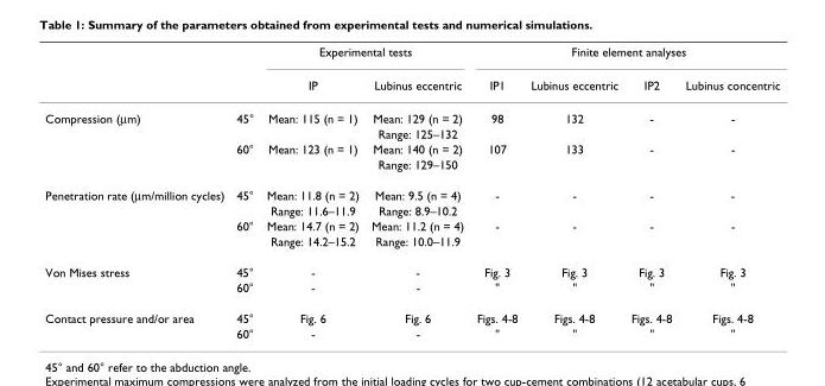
<table><thead><tr><td rowspan="2"></td><td rowspan="2"></td><td colspan="2">Experimental tests</td><td colspan="4">Finite element analyses</td></tr><tr><td>IP</td><td>Lubinus eccentric</td><td>IP1</td><td>Lubinus eccentric</td><td>IP2</td><td>Lubinus concentric</td></tr></thead><tbody><tr><td rowspan="4">Compression (µm)</td><td>45°</td><td>Mean: 115 (n = 1)</td><td>Mean: 129 (n = 2)</td><td>98</td><td>132</td><td>-</td><td>-</td></tr><tr><td></td><td></td><td>Range: 125–132</td><td></td><td></td><td></td><td></td></tr><tr><td>60°</td><td>Mean: 123 (n = 1)</td><td>Mean: 140 (n = 2)</td><td>107</td><td>133</td><td>-</td><td>-</td></tr><tr><td></td><td></td><td>Range: 129–150</td><td></td><td></td><td></td><td></td></tr><tr><td rowspan="4">Penetration rate (µm/million cycles)</td><td>45°</td><td>Mean: 11.8 (n = 2)</td><td>Mean: 9.5 (n = 4)</td><td>-</td><td>-</td><td>-</td><td>-</td></tr><tr><td></td><td>Range: 11.6–11.9</td><td>Range: 8.9–10.2</td><td></td><td></td><td></td><td></td></tr><tr><td>60°</td><td>Mean: 14.7 (n = 2)</td><td>Mean: 11.2 (n = 4)</td><td>-</td><td>-</td><td>-</td><td>-</td></tr><tr><td></td><td>Range: 14.2–15.2</td><td>Range: 10.0–11.9</td><td></td><td></td><td></td><td></td></tr><tr><td rowspan="2">Von Mises stress</td><td>45°</td><td>-</td><td>-</td><td>Fig. 3</td><td>Fig. 3</td><td>Fig. 3</td><td>Fig. 3</td></tr><tr><td>60°</td><td>-</td><td>-</td><td>&quot;</td><td>&quot;</td><td>&quot;</td><td>&quot;</td></tr><tr><td rowspan="2">Contact pressure and/or area</td><td>45°</td><td>Fig. 6</td><td>Fig. 6</td><td>Figs. 4-8</td><td>Figs. 4-8</td><td>Figs. 4-8</td><td>Figs. 4-8</td></tr><tr><td>60°</td><td>-</td><td>-</td><td>&quot;</td><td>&quot;</td><td>&quot;</td><td>&quot;</td></tr></tbody></table>